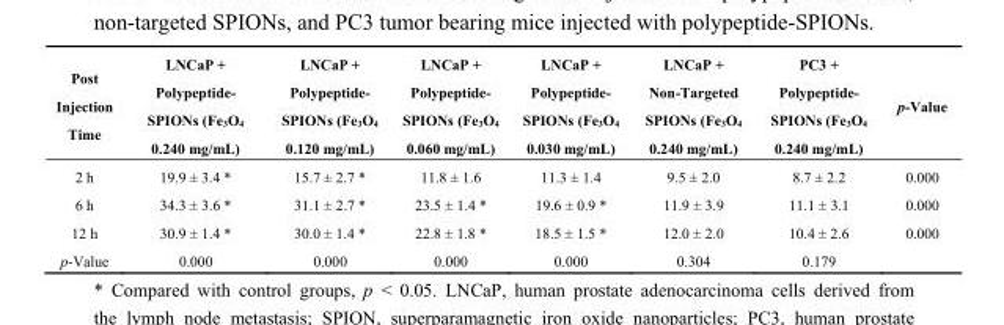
<table><thead><tr><td>Post Injection Time</td><td>LNCaP + Polypeptide- SPIONs (Fe<sub>3</sub>O<sub>4</sub> 0.240 mg/mL)</td><td>LNCaP + Polypeptide- SPIONs (Fe<sub>3</sub>O<sub>4</sub> 0.120 mg/mL)</td><td>LNCaP + Polypeptide- SPIONs (Fe<sub>3</sub>O<sub>4</sub> 0.060 mg/mL)</td><td>LNCaP + Polypeptide- SPIONs (Fe<sub>3</sub>O<sub>4</sub> 0.030 mg/mL)</td><td>LNCaP + Non-Targeted SPIONs (Fe<sub>3</sub>O<sub>4</sub> 0.240 mg/mL)</td><td>PC3 + Polypeptide- SPIONs (Fe<sub>3</sub>O<sub>4</sub> 0.240 mg/mL)</td><td>p-Value</td></tr></thead><tbody><tr><td>2 h</td><td>19.9 ± 3.4 *</td><td>15.7 ± 2.7 *</td><td>11.8 ± 1.6</td><td>11.3 ± 1.4</td><td>9.5 ± 2.0</td><td>8.7 ± 2.2</td><td>0.000</td></tr><tr><td>6 h</td><td>34.3 ± 3.6 *</td><td>31.1 ± 2.7 *</td><td>23.5 ± 1.4 *</td><td>19.6 ± 0.9 *</td><td>11.9 ± 3.9</td><td>11.1 ± 3.1</td><td>0.000</td></tr><tr><td>12 h</td><td>30.9 ± 1.4 *</td><td>30.0 ± 1.4 *</td><td>22.8 ± 1.8 *</td><td>18.5 ± 1.5 *</td><td>12.0 ± 2.0</td><td>10.4 ± 2.6</td><td>0.000</td></tr><tr><td>p-Value</td><td>0.000</td><td>0.000</td><td>0.000</td><td>0.000</td><td>0.304</td><td>0.179</td><td></td></tr></tbody></table>